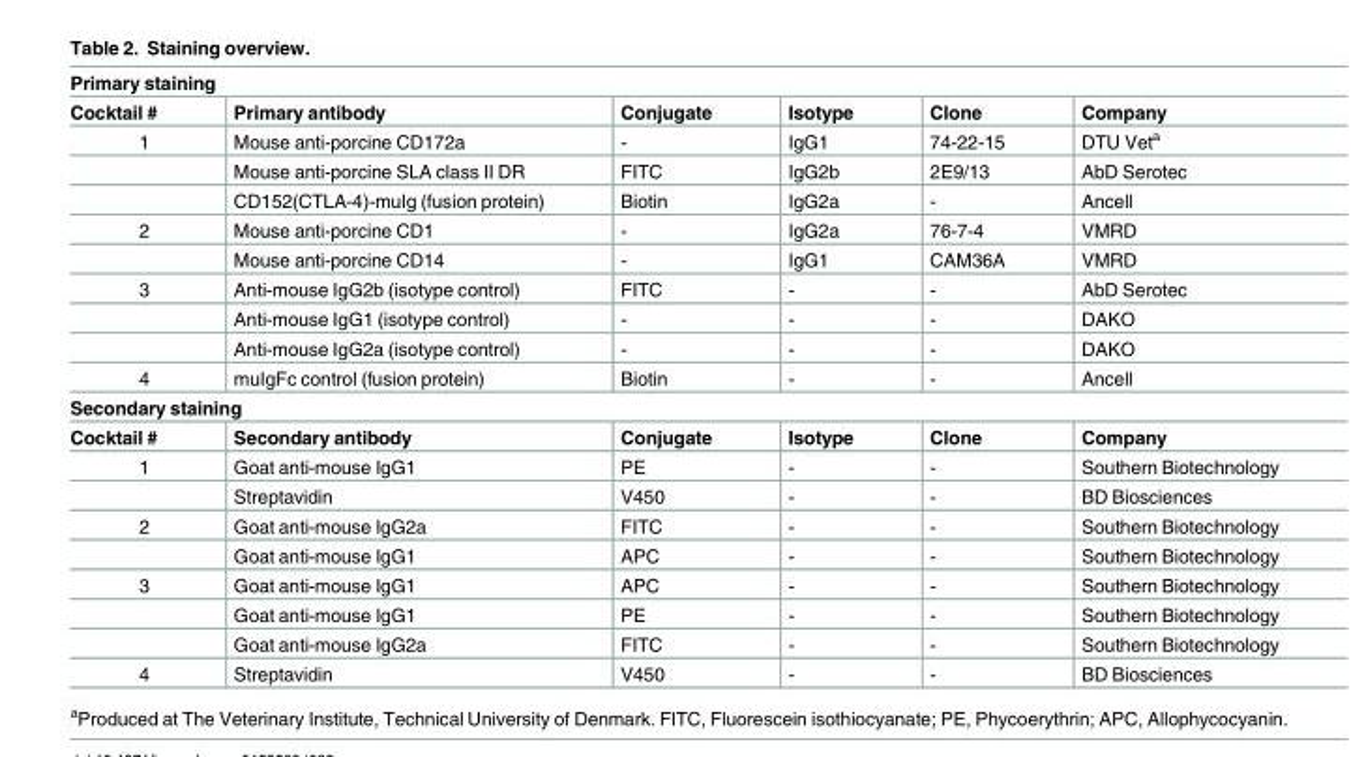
<table><tbody><tr><td colspan="6">Primary staining</td></tr><tr><td>Cocktail #</td><td>Primary antibody</td><td>Conjugate</td><td>Isotype</td><td>Clone</td><td>Company</td></tr><tr><td rowspan="3">1</td><td>Mouse anti-porcine CD172a</td><td>-</td><td>IgG1</td><td>74-22-15</td><td>DTU Vet<sup>a</sup></td></tr><tr><td>Mouse anti-porcine SLA class II DR</td><td>FITC</td><td>IgG2b</td><td>2E9/13</td><td>AbD Serotec</td></tr><tr><td>CD152(CTLA-4)-muIg (fusion protein)</td><td>Biotin</td><td>IgG2a</td><td>-</td><td>Ancell</td></tr><tr><td rowspan="2">2</td><td>Mouse anti-porcine CD1</td><td>-</td><td>IgG2a</td><td>76-7-4</td><td>VMRD</td></tr><tr><td>Mouse anti-porcine CD14</td><td>-</td><td>IgG1</td><td>CAM36A</td><td>VMRD</td></tr><tr><td rowspan="3">3</td><td>Anti-mouse IgG2b (isotype control)</td><td>FITC</td><td>-</td><td>-</td><td>AbD Serotec</td></tr><tr><td>Anti-mouse IgG1 (isotype control)</td><td>-</td><td>-</td><td>-</td><td>DAKO</td></tr><tr><td>Anti-mouse IgG2a (isotype control)</td><td>-</td><td>-</td><td>-</td><td>DAKO</td></tr><tr><td>4</td><td>muIgFc control (fusion protein)</td><td>Biotin</td><td>-</td><td>-</td><td>Ancell</td></tr><tr><td colspan="6">Secondary staining</td></tr><tr><td>Cocktail #</td><td>Secondary antibody</td><td>Conjugate</td><td>Isotype</td><td>Clone</td><td>Company</td></tr><tr><td rowspan="2">1</td><td>Goat anti-mouse IgG1</td><td>PE</td><td>-</td><td>-</td><td>Southern Biotechnology</td></tr><tr><td>Streptavidin</td><td>V450</td><td>-</td><td>-</td><td>BD Biosciences</td></tr><tr><td rowspan="2">2</td><td>Goat anti-mouse IgG2a</td><td>FITC</td><td>-</td><td>-</td><td>Southern Biotechnology</td></tr><tr><td>Goat anti-mouse IgG1</td><td>APC</td><td>-</td><td>-</td><td>Southern Biotechnology</td></tr><tr><td rowspan="3">3</td><td>Goat anti-mouse IgG1</td><td>APC</td><td>-</td><td>-</td><td>Southern Biotechnology</td></tr><tr><td>Goat anti-mouse IgG1</td><td>PE</td><td>-</td><td>-</td><td>Southern Biotechnology</td></tr><tr><td>Goat anti-mouse IgG2a</td><td>FITC</td><td>-</td><td>-</td><td>Southern Biotechnology</td></tr><tr><td>4</td><td>Streptavidin</td><td>V450</td><td>-</td><td>-</td><td>BD Biosciences</td></tr></tbody></table>